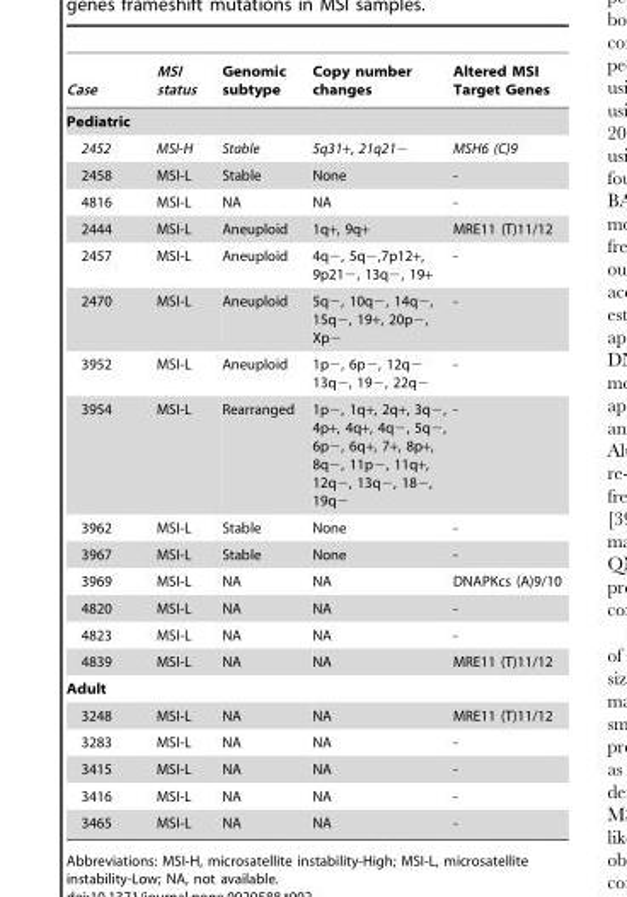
<table><thead><tr><td>Case</td><td>MSI status</td><td>Genomic subtype</td><td>Copy number changes</td><td>Altered MSI Target Genes</td></tr></thead><tbody><tr><td colspan="5">Pediatric</td></tr><tr><td>2452</td><td>MSI-H</td><td>Stable</td><td>5q31+, 21q21−</td><td>MSH6 (C)9</td></tr><tr><td>2458</td><td>MSI-L</td><td>Stable</td><td>None</td><td>-</td></tr><tr><td>4816</td><td>MSI-L</td><td>NA</td><td>NA</td><td>-</td></tr><tr><td>2444</td><td>MSI-L</td><td>Aneuploid</td><td>1q+, 9q+</td><td>MRE11 (T)11/12</td></tr><tr><td>2457</td><td>MSI-L</td><td>Aneuploid</td><td>4q−, 5q−,7p12+, 9p21−, 13q−, 19+</td><td>-</td></tr><tr><td>2470</td><td>MSI-L</td><td>Aneuploid</td><td>5q−, 10q−, 14q−, 15q−, 19+, 20p−, Xp−</td><td>-</td></tr><tr><td>3952</td><td>MSI-L</td><td>Aneuploid</td><td>1p−, 6p−, 12q− 13q−, 19−, 22q−</td><td>-</td></tr><tr><td>3954</td><td>MSI-L</td><td>Rearranged</td><td>1p−, 1q+, 2q+, 3q−, 4p+, 4q+, 4q−, 5q−, 6p−, 6q+, 7+, 8p+, 8q−, 11p−, 11q+, 12q−, 13q−, 18−, 19q−</td><td>-</td></tr><tr><td>3962</td><td>MSI-L</td><td>Stable</td><td>None</td><td>-</td></tr><tr><td>3967</td><td>MSI-L</td><td>Stable</td><td>None</td><td>-</td></tr><tr><td>3969</td><td>MSI-L</td><td>NA</td><td>NA</td><td>DNAPKcs (A)9/10</td></tr><tr><td>4820</td><td>MSI-L</td><td>NA</td><td>NA</td><td>-</td></tr><tr><td>4823</td><td>MSI-L</td><td>NA</td><td>NA</td><td>-</td></tr><tr><td>4839</td><td>MSI-L</td><td>NA</td><td>NA</td><td>MRE11 (T)11/12</td></tr><tr><td colspan="5">Adult</td></tr><tr><td>3248</td><td>MSI-L</td><td>NA</td><td>NA</td><td>MRE11 (T)11/12</td></tr><tr><td>3283</td><td>MSI-L</td><td>NA</td><td>NA</td><td>-</td></tr><tr><td>3415</td><td>MSI-L</td><td>NA</td><td>NA</td><td>-</td></tr><tr><td>3416</td><td>MSI-L</td><td>NA</td><td>NA</td><td>-</td></tr><tr><td>3465</td><td>MSI-L</td><td>NA</td><td>NA</td><td>-</td></tr></tbody></table>